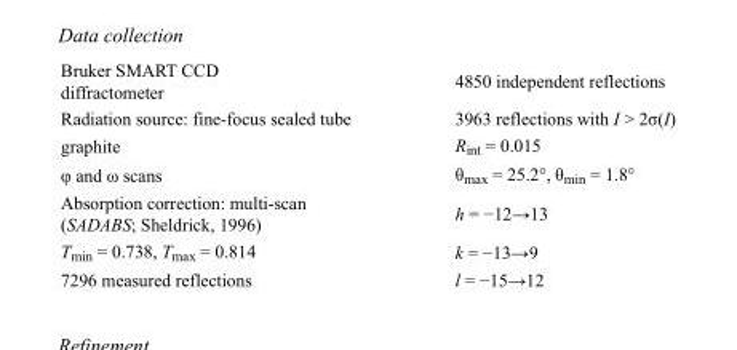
<table><tbody><tr><td>Bruker SMART CCD diffractometer</td><td>4850 independent reflections</td></tr><tr><td>Radiation source: fine-focus sealed tube</td><td>3963 reflections with I &gt; 2σ(I)</td></tr><tr><td>graphite</td><td>R<sub>int</sub> = 0.015</td></tr><tr><td>φ and ω scans</td><td>θ<sub>max</sub> = 25.2°, θ<sub>min</sub> = 1.8°</td></tr><tr><td>Absorption correction: multi-scan (SADABS; Sheldrick, 1996)</td><td>h = −12→13</td></tr><tr><td>T<sub>min</sub> = 0.738, T<sub>max</sub> = 0.814</td><td>k = −13→9</td></tr><tr><td>7296 measured reflections</td><td>l = −15→12</td></tr></tbody></table>